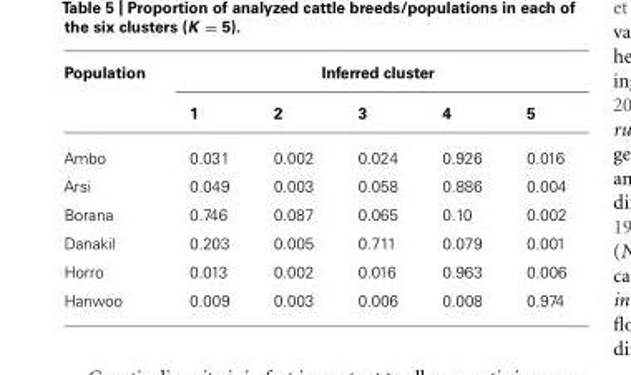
<table><thead><tr><td rowspan="2">Population</td><td colspan="5">Inferred cluster</td></tr><tr><td>1</td><td>2</td><td>3</td><td>4</td><td>5</td></tr></thead><tbody><tr><td>Ambo</td><td>0.031</td><td>0.002</td><td>0.024</td><td>0.926</td><td>0.016</td></tr><tr><td>Arsi</td><td>0.049</td><td>0.003</td><td>0.058</td><td>0.886</td><td>0.004</td></tr><tr><td>Borana</td><td>0.746</td><td>0.087</td><td>0.065</td><td>0.10</td><td>0.002</td></tr><tr><td>Danakil</td><td>0.203</td><td>0.005</td><td>0.711</td><td>0.079</td><td>0.001</td></tr><tr><td>Horro</td><td>0.013</td><td>0.002</td><td>0.016</td><td>0.963</td><td>0.006</td></tr><tr><td>Hanwoo</td><td>0.009</td><td>0.003</td><td>0.006</td><td>0.008</td><td>0.974</td></tr></tbody></table>